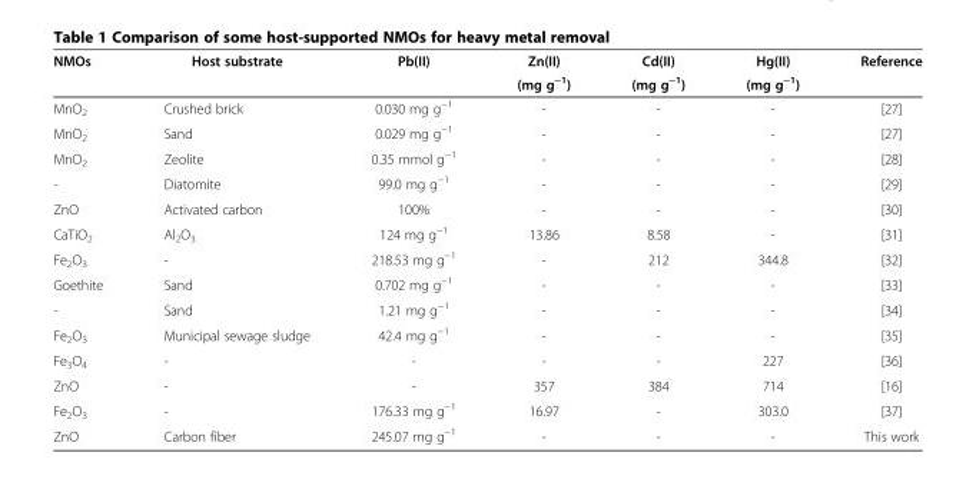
<table><thead><tr><td rowspan="2">NMOs</td><td rowspan="2">Host substrate</td><td rowspan="2">Pb(II)</td><td rowspan="2">Zn(II) (mg g<sup>−1</sup>)</td><td rowspan="2">Cd(II) (mg g<sup>−1</sup>)</td><td rowspan="2">Hg(II) (mg g<sup>−1</sup>)</td><td rowspan="2">Reference</td></tr><tr></tr></thead><tbody><tr><td>MnO<sub>2</sub></td><td>Crushed brick</td><td>0.030 mg g<sup>−1</sup></td><td>-</td><td>-</td><td>-</td><td>[27]</td></tr><tr><td>MnO<sub>2</sub></td><td>Sand</td><td>0.029 mg g<sup>−1</sup></td><td>-</td><td>-</td><td>-</td><td>[27]</td></tr><tr><td>MnO<sub>2</sub></td><td>Zeolite</td><td>0.35 mmol g<sup>−1</sup></td><td>-</td><td>-</td><td>-</td><td>[28]</td></tr><tr><td>-</td><td>Diatomite</td><td>99.0 mg g<sup>−1</sup></td><td>-</td><td>-</td><td>-</td><td>[29]</td></tr><tr><td>ZnO</td><td>Activated carbon</td><td>100%</td><td>-</td><td>-</td><td>-</td><td>[30]</td></tr><tr><td>CaTiO<sub>2</sub></td><td>Al<sub>2</sub>O<sub>3</sub></td><td>124 mg g<sup>−1</sup></td><td>13.86</td><td>8.58</td><td>-</td><td>[31]</td></tr><tr><td>Fe<sub>2</sub>O<sub>3</sub></td><td>-</td><td>218.53 mg g<sup>−1</sup></td><td>-</td><td>212</td><td>344.8</td><td>[32]</td></tr><tr><td>Goethite</td><td>Sand</td><td>0.702 mg g<sup>−1</sup></td><td>-</td><td>-</td><td>-</td><td>[33]</td></tr><tr><td>-</td><td>Sand</td><td>1.21 mg g<sup>−1</sup></td><td>-</td><td>-</td><td>-</td><td>[34]</td></tr><tr><td>Fe<sub>2</sub>O<sub>3</sub></td><td>Municipal sewage sludge</td><td>42.4 mg g<sup>−1</sup></td><td>-</td><td>-</td><td>-</td><td>[35]</td></tr><tr><td>Fe<sub>3</sub>O<sub>4</sub></td><td>-</td><td>-</td><td>-</td><td>-</td><td>227</td><td>[36]</td></tr><tr><td>ZnO</td><td>-</td><td>-</td><td>357</td><td>384</td><td>714</td><td>[16]</td></tr><tr><td>Fe<sub>2</sub>O<sub>3</sub></td><td>-</td><td>176.33 mg g<sup>−1</sup></td><td>16.97</td><td>-</td><td>303.0</td><td>[37]</td></tr><tr><td>ZnO</td><td>Carbon fiber</td><td>245.07 mg g<sup>−1</sup></td><td>-</td><td>-</td><td>-</td><td>This work</td></tr></tbody></table>